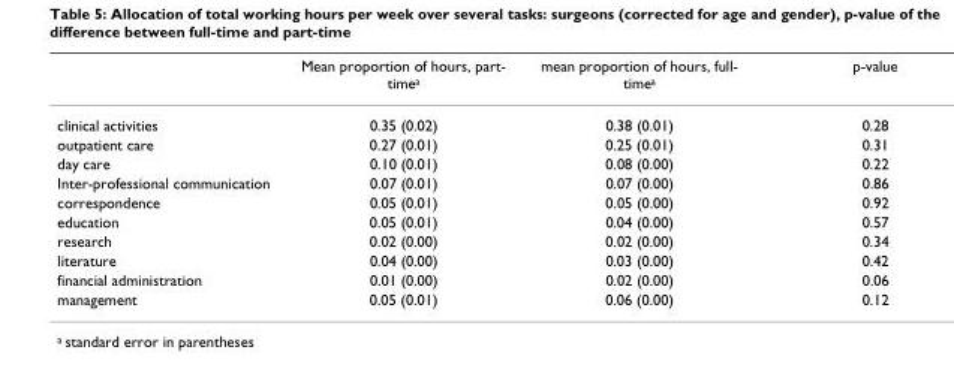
<table><thead><tr><td></td><td>Mean proportion of hours, part- timea</td><td>mean proportion of hours, full- timea</td><td>p-value</td></tr></thead><tbody><tr><td>clinical activities</td><td>0.35 (0.02)</td><td>0.38 (0.01)</td><td>0.28</td></tr><tr><td>outpatient care</td><td>0.27 (0.01)</td><td>0.25 (0.01)</td><td>0.31</td></tr><tr><td>day care</td><td>0.10 (0.01)</td><td>0.08 (0.00)</td><td>0.22</td></tr><tr><td>Inter-professional communication</td><td>0.07 (0.01)</td><td>0.07 (0.00)</td><td>0.86</td></tr><tr><td>correspondence</td><td>0.05 (0.01)</td><td>0.05 (0.00)</td><td>0.92</td></tr><tr><td>education</td><td>0.05 (0.01)</td><td>0.04 (0.00)</td><td>0.57</td></tr><tr><td>research</td><td>0.02 (0.00)</td><td>0.02 (0.00)</td><td>0.34</td></tr><tr><td>literature</td><td>0.04 (0.00)</td><td>0.03 (0.00)</td><td>0.42</td></tr><tr><td>financial administration</td><td>0.01 (0.00)</td><td>0.02 (0.00)</td><td>0.06</td></tr><tr><td>management</td><td>0.05 (0.01)</td><td>0.06 (0.00)</td><td>0.12</td></tr></tbody></table>